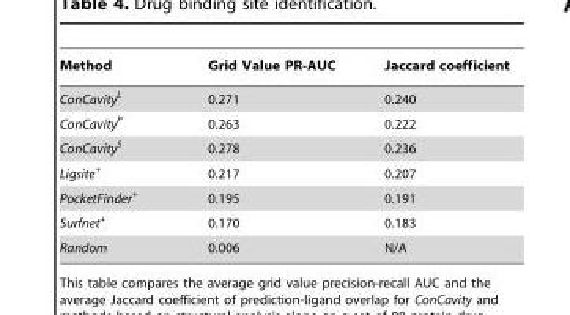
<table><thead><tr><td>Method</td><td>Grid Value PR-AUC</td><td>Jaccard coefficient</td></tr></thead><tbody><tr><td>ConCavity<sup>L</sup></td><td>0.271</td><td>0.240</td></tr><tr><td>ConCavity<sup>P</sup></td><td>0.263</td><td>0.222</td></tr><tr><td>ConCavity<sup>S</sup></td><td>0.278</td><td>0.236</td></tr><tr><td>Ligsite<sup>+</sup></td><td>0.217</td><td>0.207</td></tr><tr><td>PocketFinder<sup>+</sup></td><td>0.195</td><td>0.191</td></tr><tr><td>Surfnet<sup>+</sup></td><td>0.170</td><td>0.183</td></tr><tr><td>Random</td><td>0.006</td><td>N/A</td></tr></tbody></table>